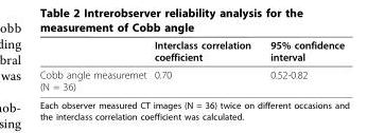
<table><thead><tr><td></td><td>Interclass correlation coefficient</td><td>95% confidence interval</td></tr></thead><tbody><tr><td>Cobb angle measuremet (N = 36)</td><td>0.70</td><td>0.52-0.82</td></tr></tbody></table>